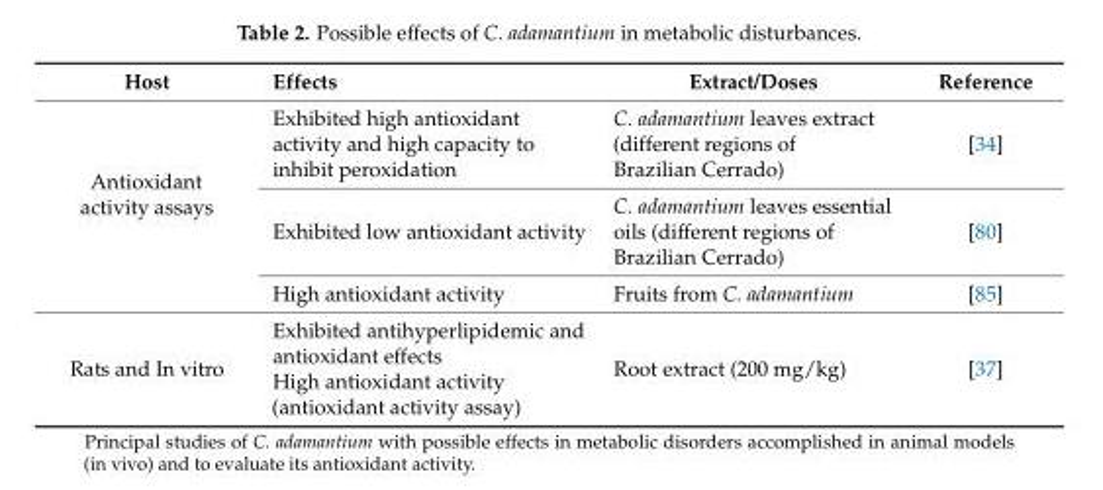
<table><thead><tr><td>Host</td><td>Effects</td><td>Extract/Doses</td><td>Reference</td></tr></thead><tbody><tr><td rowspan="3">Antioxidant activity assays</td><td>Exhibited high antioxidant activity and high capacity to inhibit peroxidation</td><td>C. adamantium leaves extract (different regions of Brazilian Cerrado)</td><td>[34]</td></tr><tr><td>Exhibited low antioxidant activity</td><td>C. adamantium leaves essential oils (different regions of Brazilian Cerrado)</td><td>[80]</td></tr><tr><td>High antioxidant activity</td><td>Fruits from C. adamantium</td><td>[85]</td></tr><tr><td>Rats and In vitro</td><td>Exhibited antihyperlipidemic and antioxidant effects High antioxidant activity (antioxidant activity assay)</td><td>Root extract (200 mg/kg)</td><td>[37]</td></tr></tbody></table>